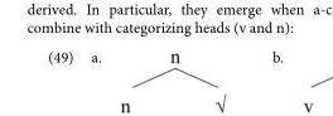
<table><tbody><tr><td>(49)</td><td>a.</td><td>b.</td></tr></tbody></table>